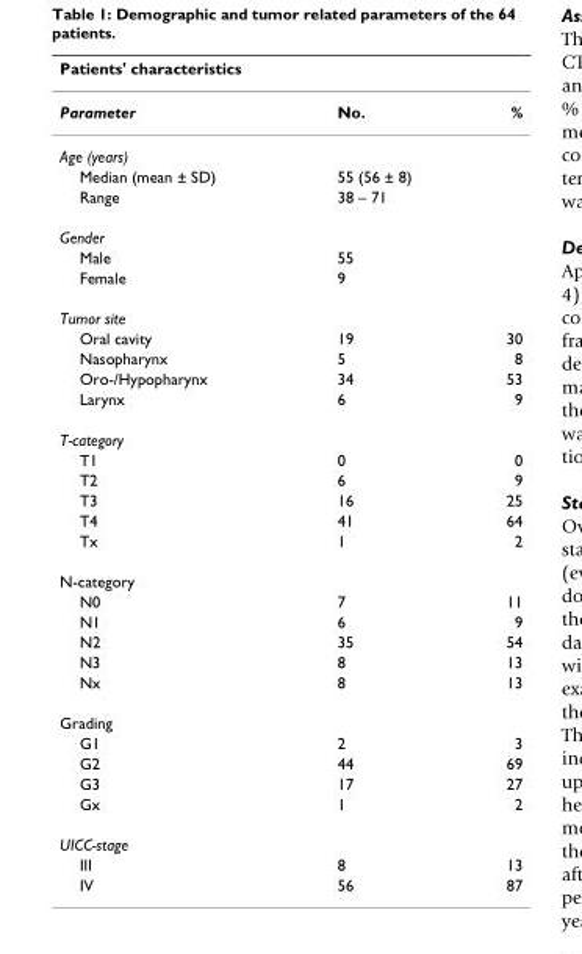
<table><thead><tr><td colspan="3">Patients&#x27; characteristics</td></tr><tr><td>Parameter</td><td>No.</td><td>%</td></tr></thead><tbody><tr><td colspan="3">Age (years)</td></tr><tr><td>Median (mean ± SD)</td><td>55 (56 ± 8)</td><td></td></tr><tr><td>Range</td><td>38 – 71</td><td></td></tr><tr><td colspan="3">Gender</td></tr><tr><td>Male</td><td>55</td><td></td></tr><tr><td>Female</td><td>9</td><td></td></tr><tr><td colspan="3">Tumor site</td></tr><tr><td>Oral cavity</td><td>19</td><td>30</td></tr><tr><td>Nasopharynx</td><td>5</td><td>8</td></tr><tr><td>Oro-/Hypopharynx</td><td>34</td><td>53</td></tr><tr><td>Larynx</td><td>6</td><td>9</td></tr><tr><td colspan="3">T-category</td></tr><tr><td>T1</td><td>0</td><td>0</td></tr><tr><td>T2</td><td>6</td><td>9</td></tr><tr><td>T3</td><td>16</td><td>25</td></tr><tr><td>T4</td><td>41</td><td>64</td></tr><tr><td>Tx</td><td>1</td><td>2</td></tr><tr><td colspan="3">N-category</td></tr><tr><td>N0</td><td>7</td><td>11</td></tr><tr><td>N1</td><td>6</td><td>9</td></tr><tr><td>N2</td><td>35</td><td>54</td></tr><tr><td>N3</td><td>8</td><td>13</td></tr><tr><td>Nx</td><td>8</td><td>13</td></tr><tr><td colspan="3">Grading</td></tr><tr><td>G1</td><td>2</td><td>3</td></tr><tr><td>G2</td><td>44</td><td>69</td></tr><tr><td>G3</td><td>17</td><td>27</td></tr><tr><td>Gx</td><td>1</td><td>2</td></tr><tr><td colspan="3">UICC-stage</td></tr><tr><td>III</td><td>8</td><td>13</td></tr><tr><td>IV</td><td>56</td><td>87</td></tr></tbody></table>